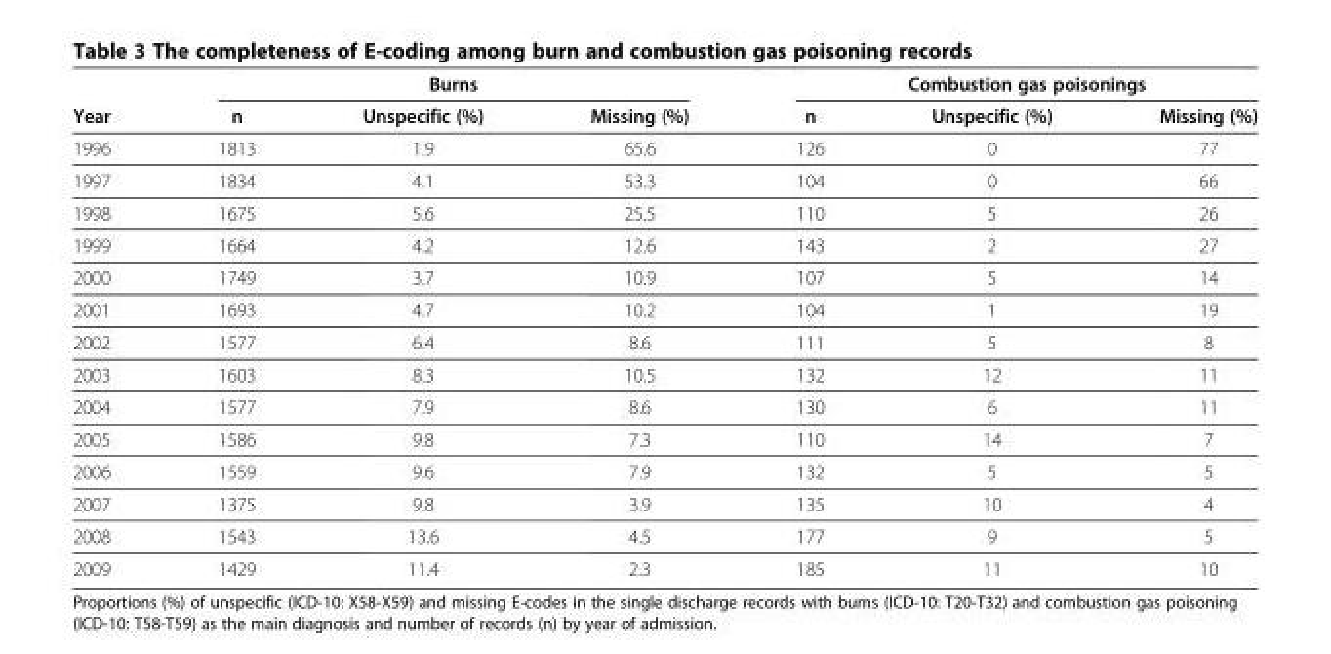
<table><thead><tr><td rowspan="2">Year</td><td colspan="3">Burns</td><td colspan="3">Combustion gas poisonings</td></tr><tr><td>n</td><td>Unspecific (%)</td><td>Missing (%)</td><td>n</td><td>Unspecific (%)</td><td>Missing (%)</td></tr></thead><tbody><tr><td>1996</td><td>1813</td><td>1.9</td><td>65.6</td><td>126</td><td>0</td><td>77</td></tr><tr><td>1997</td><td>1834</td><td>4.1</td><td>53.3</td><td>104</td><td>0</td><td>66</td></tr><tr><td>1998</td><td>1675</td><td>5.6</td><td>25.5</td><td>110</td><td>5</td><td>26</td></tr><tr><td>1999</td><td>1664</td><td>4.2</td><td>12.6</td><td>143</td><td>2</td><td>27</td></tr><tr><td>2000</td><td>1749</td><td>3.7</td><td>10.9</td><td>107</td><td>5</td><td>14</td></tr><tr><td>2001</td><td>1693</td><td>4.7</td><td>10.2</td><td>104</td><td>1</td><td>19</td></tr><tr><td>2002</td><td>1577</td><td>6.4</td><td>8.6</td><td>111</td><td>5</td><td>8</td></tr><tr><td>2003</td><td>1603</td><td>8.3</td><td>10.5</td><td>132</td><td>12</td><td>11</td></tr><tr><td>2004</td><td>1577</td><td>7.9</td><td>8.6</td><td>130</td><td>6</td><td>11</td></tr><tr><td>2005</td><td>1586</td><td>9.8</td><td>7.3</td><td>110</td><td>14</td><td>7</td></tr><tr><td>2006</td><td>1559</td><td>9.6</td><td>7.9</td><td>132</td><td>5</td><td>5</td></tr><tr><td>2007</td><td>1375</td><td>9.8</td><td>3.9</td><td>135</td><td>10</td><td>4</td></tr><tr><td>2008</td><td>1543</td><td>13.6</td><td>4.5</td><td>177</td><td>9</td><td>5</td></tr><tr><td>2009</td><td>1429</td><td>11.4</td><td>2.3</td><td>185</td><td>11</td><td>10</td></tr></tbody></table>